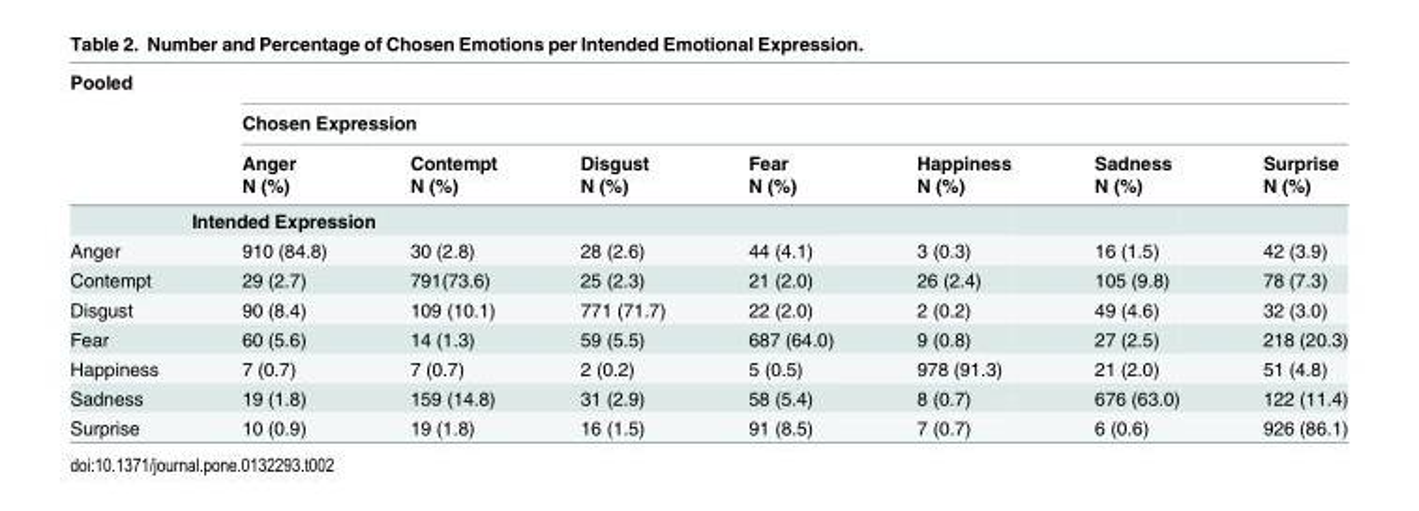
<table><thead><tr><td rowspan="4">Pooled</td><td></td><td></td><td></td><td></td><td></td><td></td><td></td></tr><tr><td colspan="7">Chosen Expression</td></tr><tr><td rowspan="2">Anger N (%)</td><td rowspan="2">Contempt N (%)</td><td rowspan="2">Disgust N (%)</td><td rowspan="2">Fear N (%)</td><td rowspan="2">Happiness N (%)</td><td rowspan="2">Sadness N (%)</td><td rowspan="2">Surprise N (%)</td></tr><tr></tr></thead><tbody><tr><td colspan="8">Intended Expression</td></tr><tr><td>Anger</td><td>910 (84.8)</td><td>30 (2.8)</td><td>28 (2.6)</td><td>44 (4.1)</td><td>3 (0.3)</td><td>16 (1.5)</td><td>42 (3.9)</td></tr><tr><td>Contempt</td><td>29 (2.7)</td><td>791(73.6)</td><td>25 (2.3)</td><td>21 (2.0)</td><td>26 (2.4)</td><td>105 (9.8)</td><td>78 (7.3)</td></tr><tr><td>Disgust</td><td>90 (8.4)</td><td>109 (10.1)</td><td>771 (71.7)</td><td>22 (2.0)</td><td>2 (0.2)</td><td>49 (4.6)</td><td>32 (3.0)</td></tr><tr><td>Fear</td><td>60 (5.6)</td><td>14 (1.3)</td><td>59 (5.5)</td><td>687 (64.0)</td><td>9 (0.8)</td><td>27 (2.5)</td><td>218 (20.3)</td></tr><tr><td>Happiness</td><td>7 (0.7)</td><td>7 (0.7)</td><td>2 (0.2)</td><td>5 (0.5)</td><td>978 (91.3)</td><td>21 (2.0)</td><td>51 (4.8)</td></tr><tr><td>Sadness</td><td>19 (1.8)</td><td>159 (14.8)</td><td>31 (2.9)</td><td>58 (5.4)</td><td>8 (0.7)</td><td>676 (63.0)</td><td>122 (11.4)</td></tr><tr><td>Surprise</td><td>10 (0.9)</td><td>19 (1.8)</td><td>16 (1.5)</td><td>91 (8.5)</td><td>7 (0.7)</td><td>6 (0.6)</td><td>926 (86.1)</td></tr></tbody></table>